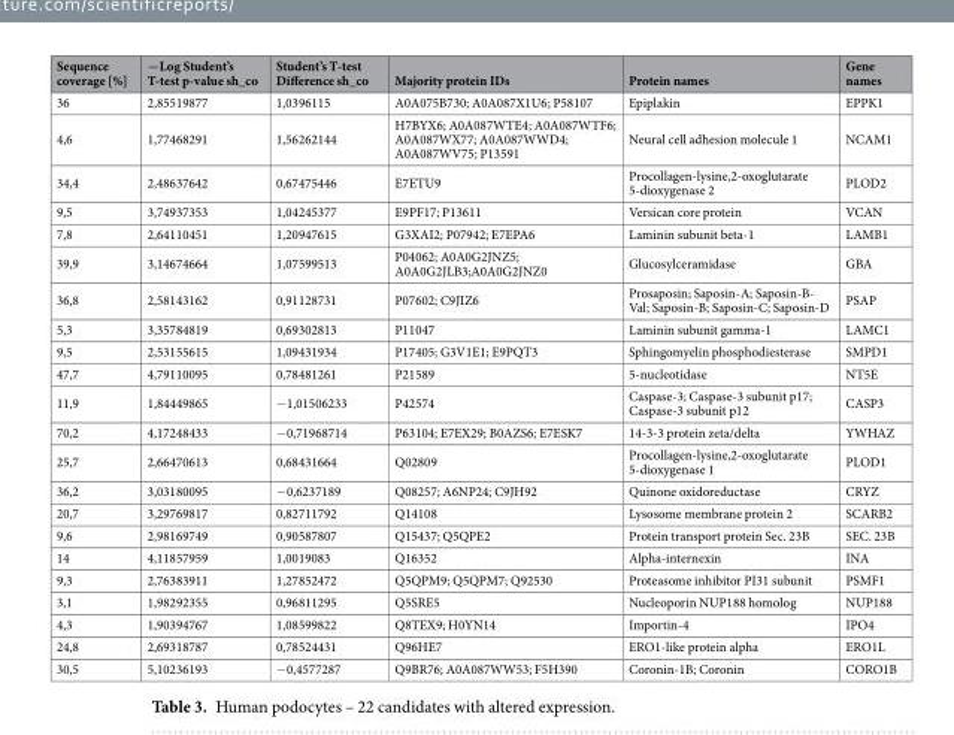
<table><thead><tr><td>Sequence coverage [%]</td><td>−Log Student’s T-test p-value sh_co</td><td>Student’s T-test Difference sh_co</td><td>Majority protein IDs</td><td>Protein names</td><td>Gene names</td></tr></thead><tbody><tr><td>36</td><td>2,85519877</td><td>1,0396115</td><td>A0A075B730; A0A087X1U6; P58107</td><td>Epiplakin</td><td>EPPK1</td></tr><tr><td>4,6</td><td>1,77468291</td><td>1,56262144</td><td>H7BYX6; A0A087WTE4; A0A087WTF6; A0A087WX77; A0A087WWD4; A0A087WV75; P13591</td><td>Neural cell adhesion molecule 1</td><td>NCAM1</td></tr><tr><td>34,4</td><td>2,48637642</td><td>0,67475446</td><td>E7ETU9</td><td>Procollagen-lysine,2-oxoglutarate 5-dioxygenase 2</td><td>PLOD2</td></tr><tr><td>9,5</td><td>3,74937353</td><td>1,04245377</td><td>E9PF17; P13611</td><td>Versican core protein</td><td>VCAN</td></tr><tr><td>7,8</td><td>2,64110451</td><td>1,20947615</td><td>G3XAI2; P07942; E7EPA6</td><td>Laminin subunit beta-1</td><td>LAMB1</td></tr><tr><td>39,9</td><td>3,14674664</td><td>1,07599513</td><td>P04062; A0A0G2JNZ5; A0A0G2JLB3;A0A0G2JNZ0</td><td>Glucosylceramidase</td><td>GBA</td></tr><tr><td>36,8</td><td>2,58143162</td><td>0,91128731</td><td>P07602; C9JIZ6</td><td>Prosaposin; Saposin-A; Saposin-B- Val; Saposin-B; Saposin-C; Saposin-D</td><td>PSAP</td></tr><tr><td>5,3</td><td>3,35784819</td><td>0,69302813</td><td>P11047</td><td>Laminin subunit gamma-1</td><td>LAMC1</td></tr><tr><td>9,5</td><td>2,53155615</td><td>1,09431934</td><td>P17405; G3V1E1; E9PQT3</td><td>Sphingomyelin phosphodiesterase</td><td>SMPD1</td></tr><tr><td>47,7</td><td>4,79110095</td><td>0,78481261</td><td>P21589</td><td>5-nucleotidase</td><td>NT5E</td></tr><tr><td>11,9</td><td>1,84449865</td><td>−1,01506233</td><td>P42574</td><td>Caspase-3; Caspase-3 subunit p17; Caspase-3 subunit p12</td><td>CASP3</td></tr><tr><td>70,2</td><td>4,17248433</td><td>−0,71968714</td><td>P63104; E7EX29; B0AZS6; E7ESK7</td><td>14-3-3 protein zeta/delta</td><td>YWHAZ</td></tr><tr><td>25,7</td><td>2,66470613</td><td>0,68431664</td><td>Q02809</td><td>Procollagen-lysine,2-oxoglutarate 5-dioxygenase 1</td><td>PLOD1</td></tr><tr><td>36,2</td><td>3,03180095</td><td>−0,6237189</td><td>Q08257; A6NP24; C9JH92</td><td>Quinone oxidoreductase</td><td>CRYZ</td></tr><tr><td>20,7</td><td>3,29769817</td><td>0,82711792</td><td>Q14108</td><td>Lysosome membrane protein 2</td><td>SCARB2</td></tr><tr><td>9,6</td><td>2,98169749</td><td>0,90587807</td><td>Q15437; Q5QPE2</td><td>Protein transport protein Sec. 23B</td><td>SEC. 23B</td></tr><tr><td>14</td><td>4,11857959</td><td>1,0019083</td><td>Q16352</td><td>Alpha-internexin</td><td>INA</td></tr><tr><td>9,3</td><td>2,76383911</td><td>1,27852472</td><td>Q5QPM9; Q5QPM7; Q92530</td><td>Proteasome inhibitor PI31 subunit</td><td>PSMF1</td></tr><tr><td>3,1</td><td>1,98292355</td><td>0,96811295</td><td>Q5SRE5</td><td>Nucleoporin NUP188 homolog</td><td>NUP188</td></tr><tr><td>4,3</td><td>1,90394767</td><td>1,08599822</td><td>Q8TEX9; H0YN14</td><td>Importin-4</td><td>IPO4</td></tr><tr><td>24,8</td><td>2,69318787</td><td>0,78524431</td><td>Q96HE7</td><td>ERO1-like protein alpha</td><td>ERO1L</td></tr><tr><td>30,5</td><td>5,10236193</td><td>−0,4577287</td><td>Q9BR76; A0A087WW53; F5H390</td><td>Coronin-1B; Coronin</td><td>CORO1B</td></tr></tbody></table>